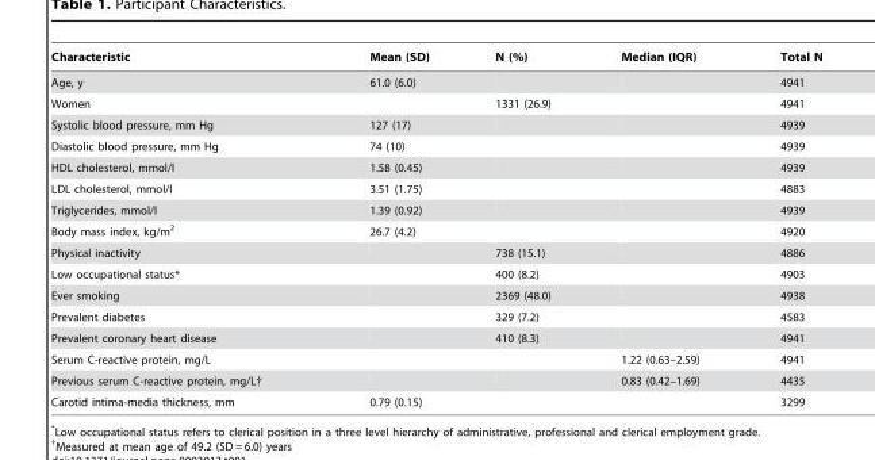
<table><thead><tr><td>Characteristic</td><td>Mean (SD)</td><td>N (%)</td><td>Median (IQR)</td><td>Total N</td></tr></thead><tbody><tr><td>Age, y</td><td>61.0 (6.0)</td><td></td><td></td><td>4941</td></tr><tr><td>Women</td><td></td><td>1331 (26.9)</td><td></td><td>4941</td></tr><tr><td>Systolic blood pressure, mm Hg</td><td>127 (17)</td><td></td><td></td><td>4939</td></tr><tr><td>Diastolic blood pressure, mm Hg</td><td>74 (10)</td><td></td><td></td><td>4939</td></tr><tr><td>HDL cholesterol, mmol/l</td><td>1.58 (0.45)</td><td></td><td></td><td>4939</td></tr><tr><td>LDL cholesterol, mmol/l</td><td>3.51 (1.75)</td><td></td><td></td><td>4883</td></tr><tr><td>Triglycerides, mmol/l</td><td>1.39 (0.92)</td><td></td><td></td><td>4939</td></tr><tr><td>Body mass index, kg/m<sup>2</sup></td><td>26.7 (4.2)</td><td></td><td></td><td>4920</td></tr><tr><td>Physical inactivity</td><td></td><td>738 (15.1)</td><td></td><td>4886</td></tr><tr><td>Low occupational status*</td><td></td><td>400 (8.2)</td><td></td><td>4903</td></tr><tr><td>Ever smoking</td><td></td><td>2369 (48.0)</td><td></td><td>4938</td></tr><tr><td>Prevalent diabetes</td><td></td><td>329 (7.2)</td><td></td><td>4583</td></tr><tr><td>Prevalent coronary heart disease</td><td></td><td>410 (8.3)</td><td></td><td>4941</td></tr><tr><td>Serum C-reactive protein, mg/L</td><td></td><td></td><td>1.22 (0.63–2.59)</td><td>4941</td></tr><tr><td>Previous serum C-reactive protein, mg/L†</td><td></td><td></td><td>0.83 (0.42–1.69)</td><td>4435</td></tr><tr><td>Carotid intima-media thickness, mm</td><td>0.79 (0.15)</td><td></td><td></td><td>3299</td></tr></tbody></table>